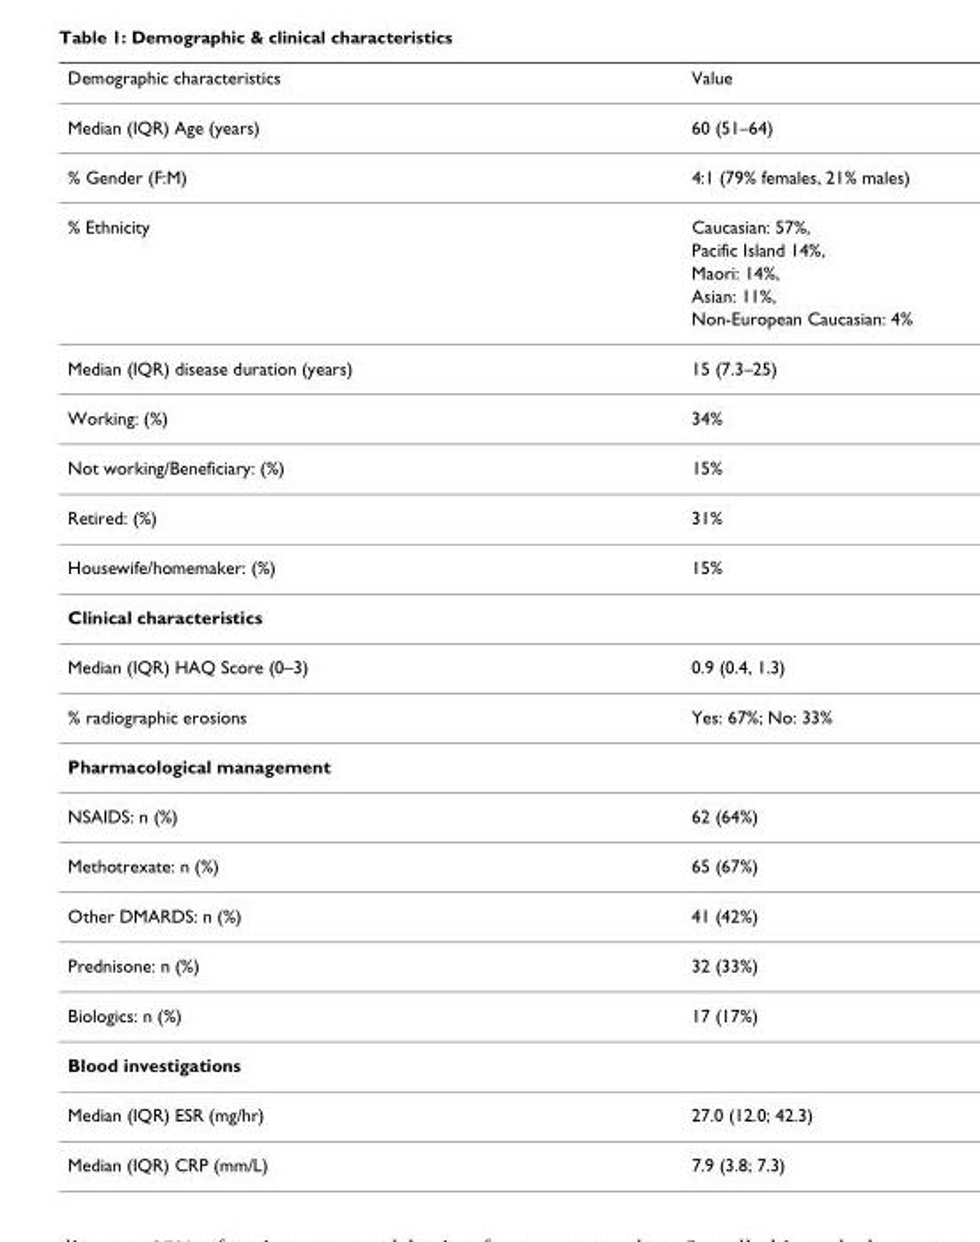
<table><thead><tr><td>Demographic characteristics</td><td>Value</td></tr></thead><tbody><tr><td>Median (IQR) Age (years)</td><td>60 (51–64)</td></tr><tr><td>% Gender (F:M)</td><td>4:1 (79% females, 21% males)</td></tr><tr><td rowspan="5">% Ethnicity</td><td>Caucasian: 57%,</td></tr><tr><td>Pacific Island 14%,</td></tr><tr><td>Maori: 14%,</td></tr><tr><td>Asian: 11%,</td></tr><tr><td>Non-European Caucasian: 4%</td></tr><tr><td>Median (IQR) disease duration (years)</td><td>15 (7.3–25)</td></tr><tr><td>Working: (%)</td><td>34%</td></tr><tr><td>Not working/Beneficiary: (%)</td><td>15%</td></tr><tr><td>Retired: (%)</td><td>31%</td></tr><tr><td>Housewife/homemaker: (%)</td><td>15%</td></tr><tr><td colspan="2">Clinical characteristics</td></tr><tr><td>Median (IQR) HAQ Score (0–3)</td><td>0.9 (0.4, 1.3)</td></tr><tr><td>% radiographic erosions</td><td>Yes: 67%; No: 33%</td></tr><tr><td colspan="2">Pharmacological management</td></tr><tr><td>NSAIDS: n (%)</td><td>62 (64%)</td></tr><tr><td>Methotrexate: n (%)</td><td>65 (67%)</td></tr><tr><td>Other DMARDS: n (%)</td><td>41 (42%)</td></tr><tr><td>Prednisone: n (%)</td><td>32 (33%)</td></tr><tr><td>Biologics: n (%)</td><td>17 (17%)</td></tr><tr><td colspan="2">Blood investigations</td></tr><tr><td>Median (IQR) ESR (mg/hr)</td><td>27.0 (12.0; 42.3)</td></tr><tr><td>Median (IQR) CRP (mm/L)</td><td>7.9 (3.8; 7.3)</td></tr></tbody></table>